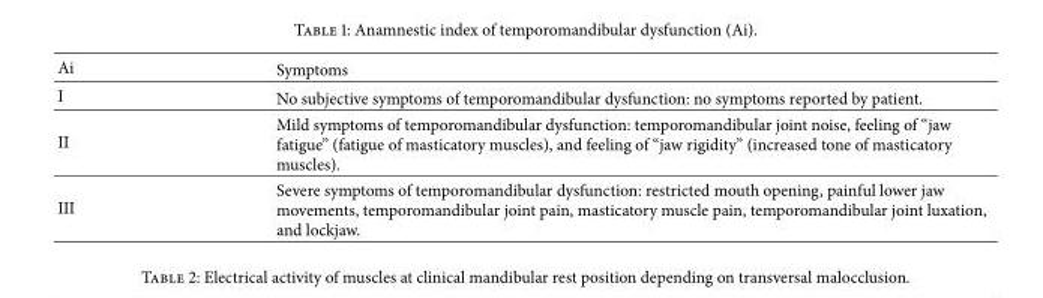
<table><thead><tr><td>Ai</td><td>Symptoms</td></tr></thead><tbody><tr><td>I</td><td>No subjective symptoms of temporomandibular dysfunction: no symptoms reported by patient.</td></tr><tr><td>II</td><td>Mild symptoms of temporomandibular dysfunction: temporomandibular joint noise, feeling of “jaw fatigue” (fatigue of masticatory muscles), and feeling of “jaw rigidity” (increased tone of masticatory muscles).</td></tr><tr><td>III</td><td>Severe symptoms of temporomandibular dysfunction: restricted mouth opening, painful lower jaw movements, temporomandibular joint pain, masticatory muscle pain, temporomandibular joint luxation, and lockjaw.</td></tr></tbody></table>